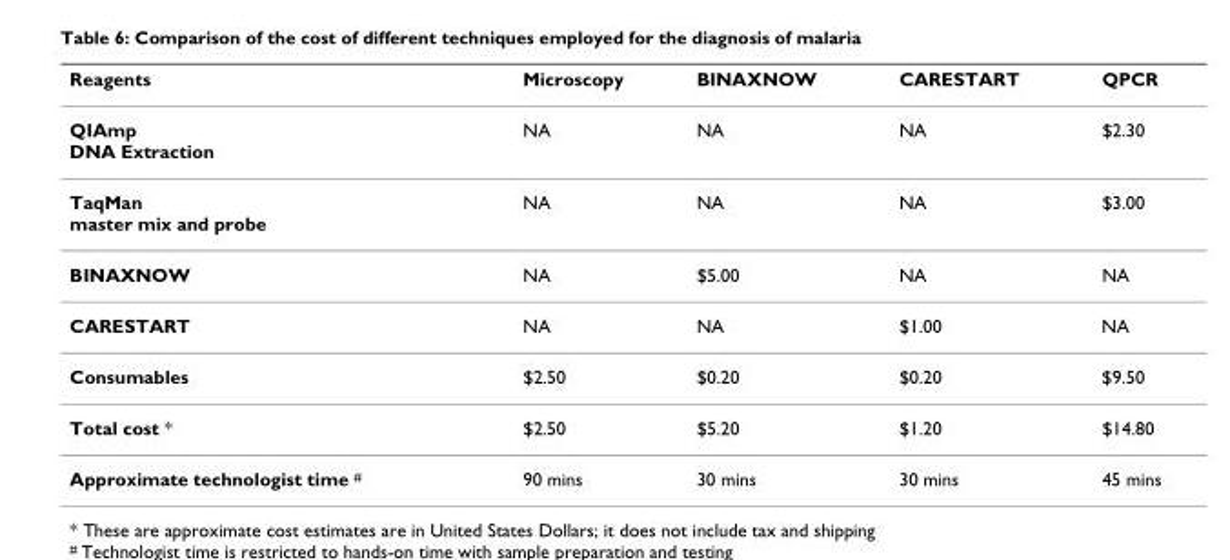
<table><thead><tr><td>Reagents</td><td>Microscopy</td><td>BINAXNOW</td><td>CARESTART</td><td>QPCR</td></tr></thead><tbody><tr><td>QIAmp DNA Extraction</td><td>NA</td><td>NA</td><td>NA</td><td>$2.30</td></tr><tr><td>TaqMan master mix and probe</td><td>NA</td><td>NA</td><td>NA</td><td>$3.00</td></tr><tr><td>BINAXNOW</td><td>NA</td><td>$5.00</td><td>NA</td><td>NA</td></tr><tr><td>CARESTART</td><td>NA</td><td>NA</td><td>$1.00</td><td>NA</td></tr><tr><td>Consumables</td><td>$2.50</td><td>$0.20</td><td>$0.20</td><td>$9.50</td></tr><tr><td>Total cost *</td><td>$2.50</td><td>$5.20</td><td>$1.20</td><td>$14.80</td></tr><tr><td>Approximate technologist time <sup>#</sup></td><td>90 mins</td><td>30 mins</td><td>30 mins</td><td>45 mins</td></tr></tbody></table>